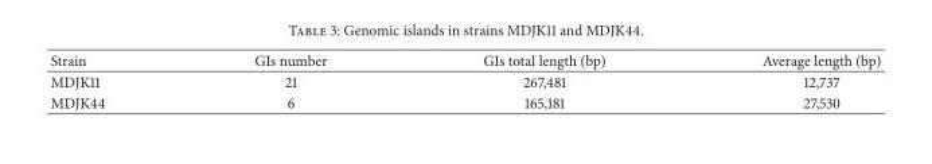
<table><thead><tr><td>Strain</td><td>GIs number</td><td>GIs total length (bp)</td><td>Average length (bp)</td></tr></thead><tbody><tr><td>MDJK11</td><td>21</td><td>267,481</td><td>12,737</td></tr><tr><td>MDJK44</td><td>6</td><td>165,181</td><td>27,530</td></tr></tbody></table>